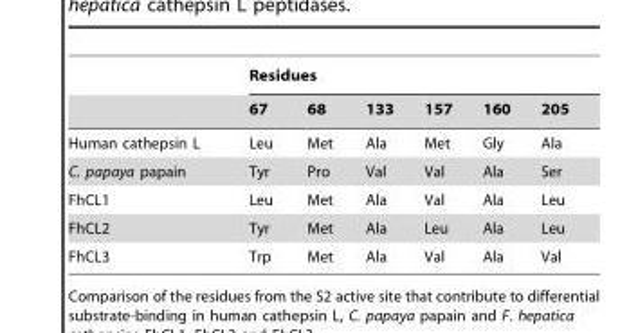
<table><thead><tr><td rowspan="2"></td><td colspan="6">Residues</td></tr><tr><td>67</td><td>68</td><td>133</td><td>157</td><td>160</td><td>205</td></tr></thead><tbody><tr><td>Human cathepsin L</td><td>Leu</td><td>Met</td><td>Ala</td><td>Met</td><td>Gly</td><td>Ala</td></tr><tr><td>C. papaya papain</td><td>Tyr</td><td>Pro</td><td>Val</td><td>Val</td><td>Ala</td><td>Ser</td></tr><tr><td>FhCL1</td><td>Leu</td><td>Met</td><td>Ala</td><td>Val</td><td>Ala</td><td>Leu</td></tr><tr><td>FhCL2</td><td>Tyr</td><td>Met</td><td>Ala</td><td>Leu</td><td>Ala</td><td>Leu</td></tr><tr><td>FhCL3</td><td>Trp</td><td>Met</td><td>Ala</td><td>Val</td><td>Ala</td><td>Val</td></tr></tbody></table>